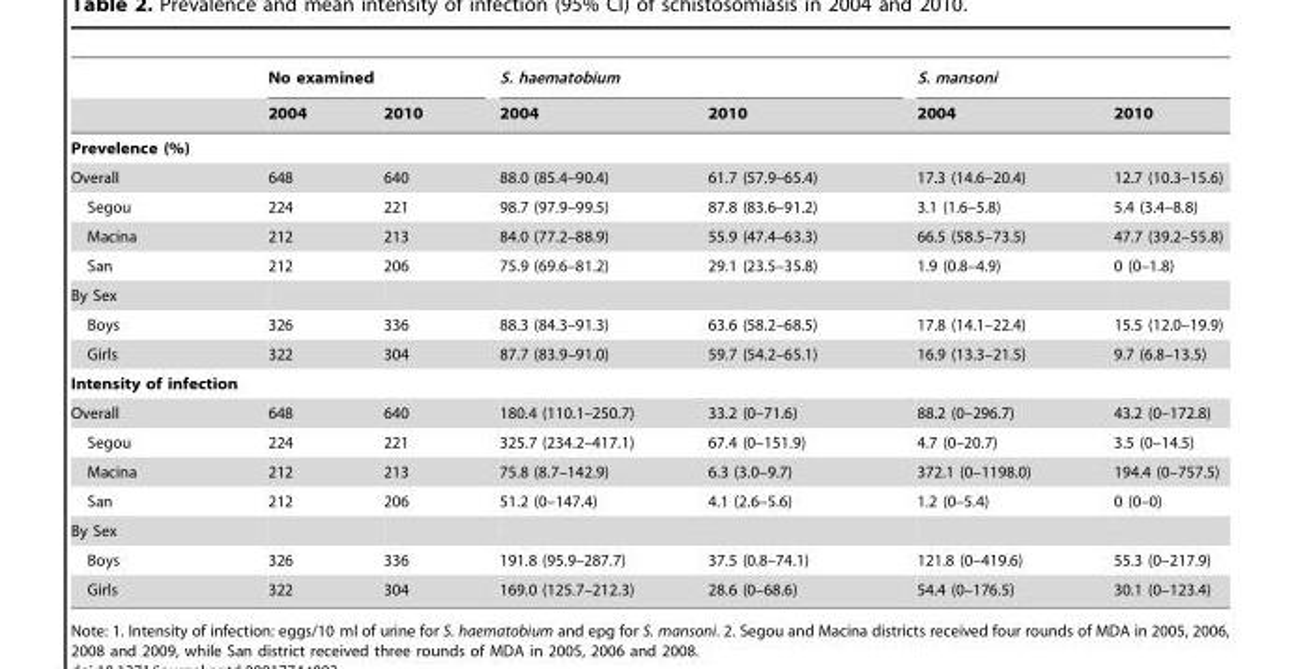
<table><thead><tr><td rowspan="2"></td><td colspan="2">No examined</td><td colspan="2">S. haematobium</td><td colspan="2">S. mansoni</td></tr><tr><td>2004</td><td>2010</td><td>2004</td><td>2010</td><td>2004</td><td>2010</td></tr></thead><tbody><tr><td colspan="7">Prevelence (%)</td></tr><tr><td>Overall</td><td>648</td><td>640</td><td>88.0 (85.4–90.4)</td><td>61.7 (57.9–65.4)</td><td>17.3 (14.6–20.4)</td><td>12.7 (10.3–15.6)</td></tr><tr><td>Segou</td><td>224</td><td>221</td><td>98.7 (97.9–99.5)</td><td>87.8 (83.6–91.2)</td><td>3.1 (1.6–5.8)</td><td>5.4 (3.4–8.8)</td></tr><tr><td>Macina</td><td>212</td><td>213</td><td>84.0 (77.2–88.9)</td><td>55.9 (47.4–63.3)</td><td>66.5 (58.5–73.5)</td><td>47.7 (39.2–55.8)</td></tr><tr><td>San</td><td>212</td><td>206</td><td>75.9 (69.6–81.2)</td><td>29.1 (23.5–35.8)</td><td>1.9 (0.8–4.9)</td><td>0 (0–1.8)</td></tr><tr><td colspan="7">By Sex</td></tr><tr><td>Boys</td><td>326</td><td>336</td><td>88.3 (84.3–91.3)</td><td>63.6 (58.2–68.5)</td><td>17.8 (14.1–22.4)</td><td>15.5 (12.0–19.9)</td></tr><tr><td>Girls</td><td>322</td><td>304</td><td>87.7 (83.9–91.0)</td><td>59.7 (54.2–65.1)</td><td>16.9 (13.3–21.5)</td><td>9.7 (6.8–13.5)</td></tr><tr><td colspan="7">Intensity of infection</td></tr><tr><td>Overall</td><td>648</td><td>640</td><td>180.4 (110.1–250.7)</td><td>33.2 (0–71.6)</td><td>88.2 (0–296.7)</td><td>43.2 (0–172.8)</td></tr><tr><td>Segou</td><td>224</td><td>221</td><td>325.7 (234.2–417.1)</td><td>67.4 (0–151.9)</td><td>4.7 (0–20.7)</td><td>3.5 (0–14.5)</td></tr><tr><td>Macina</td><td>212</td><td>213</td><td>75.8 (8.7–142.9)</td><td>6.3 (3.0–9.7)</td><td>372.1 (0–1198.0)</td><td>194.4 (0–757.5)</td></tr><tr><td>San</td><td>212</td><td>206</td><td>51.2 (0–147.4)</td><td>4.1 (2.6–5.6)</td><td>1.2 (0–5.4)</td><td>0 (0–0)</td></tr><tr><td colspan="7">By Sex</td></tr><tr><td>Boys</td><td>326</td><td>336</td><td>191.8 (95.9–287.7)</td><td>37.5 (0.8–74.1)</td><td>121.8 (0–419.6)</td><td>55.3 (0–217.9)</td></tr><tr><td>Girls</td><td>322</td><td>304</td><td>169.0 (125.7–212.3)</td><td>28.6 (0–68.6)</td><td>54.4 (0–176.5)</td><td>30.1 (0–123.4)</td></tr></tbody></table>